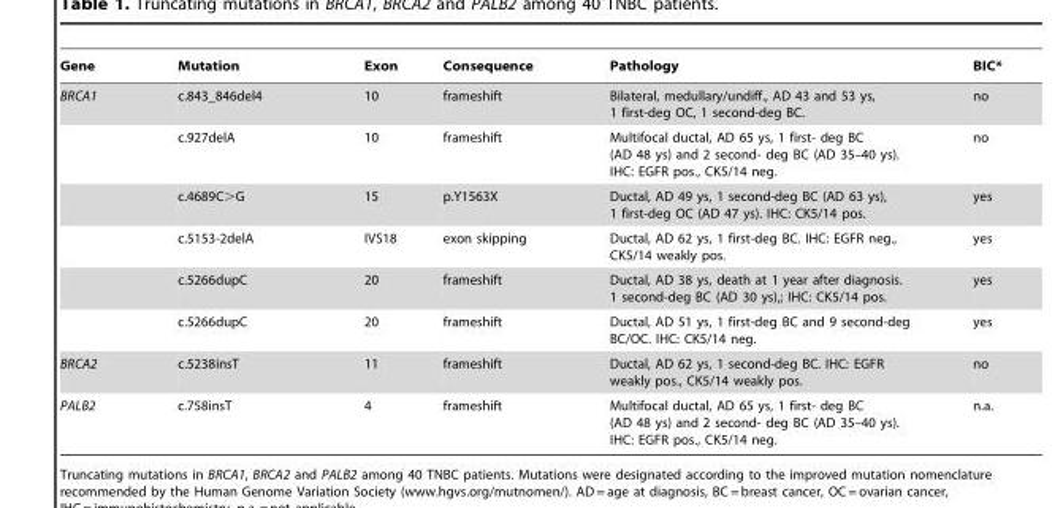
<table><thead><tr><td>Gene</td><td>Mutation</td><td>Exon</td><td>Consequence</td><td>Pathology</td><td>BIC*</td></tr></thead><tbody><tr><td rowspan="6">BRCA1</td><td>c.843_846del4</td><td>10</td><td>frameshift</td><td>Bilateral, medullary/undiff., AD 43 and 53 ys, 1 first-deg OC, 1 second-deg BC.</td><td>no</td></tr><tr><td>c.927delA</td><td>10</td><td>frameshift</td><td>Multifocal ductal, AD 65 ys, 1 first- deg BC (AD 48 ys) and 2 second- deg BC (AD 35–40 ys). IHC: EGFR pos., CK5/14 neg.</td><td>no</td></tr><tr><td>c.4689C&gt;G</td><td>15</td><td>p.Y1563X</td><td>Ductal, AD 49 ys, 1 second-deg BC (AD 63 ys), 1 first-deg OC (AD 47 ys). IHC: CK5/14 pos.</td><td>yes</td></tr><tr><td>c.5153-2delA</td><td>IVS18</td><td>exon skipping</td><td>Ductal, AD 62 ys, 1 first-deg BC. IHC: EGFR neg., CK5/14 weakly pos.</td><td>yes</td></tr><tr><td>c.5266dupC</td><td>20</td><td>frameshift</td><td>Ductal, AD 38 ys, death at 1 year after diagnosis. 1 second-deg BC (AD 30 ys),; IHC: CK5/14 pos.</td><td>yes</td></tr><tr><td>c.5266dupC</td><td>20</td><td>frameshift</td><td>Ductal, AD 51 ys, 1 first-deg BC and 9 second-deg BC/OC. IHC: CK5/14 neg.</td><td>yes</td></tr><tr><td>BRCA2</td><td>c.5238insT</td><td>11</td><td>frameshift</td><td>Ductal, AD 62 ys, 1 second-deg BC. IHC: EGFR weakly pos., CK5/14 weakly pos.</td><td>no</td></tr><tr><td>PALB2</td><td>c.758insT</td><td>4</td><td>frameshift</td><td>Multifocal ductal, AD 65 ys, 1 first- deg BC (AD 48 ys) and 2 second- deg BC (AD 35–40 ys). IHC: EGFR pos., CK5/14 neg.</td><td>n.a.</td></tr></tbody></table>